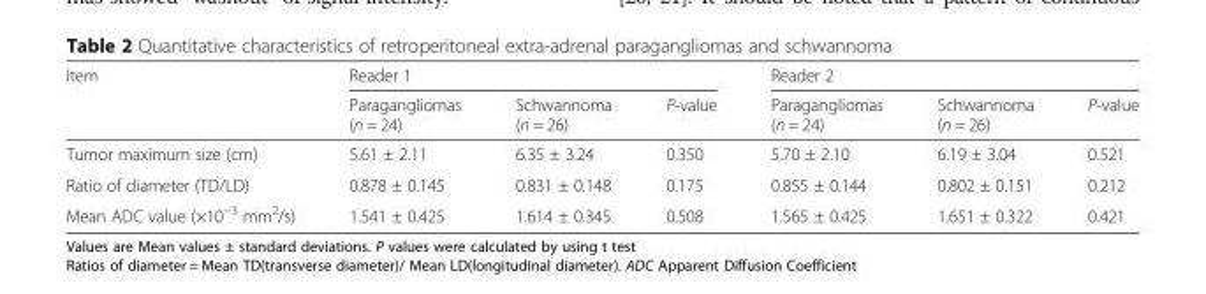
<table><thead><tr><td rowspan="2">Item</td><td colspan="3">Reader 1</td><td colspan="3">Reader 2</td></tr><tr><td>Paragangliomas (n = 24)</td><td>Schwannoma (n = 26)</td><td>P-value</td><td>Paragangliomas (n = 24)</td><td>Schwannoma (n = 26)</td><td>P-value</td></tr></thead><tbody><tr><td>Tumor maximum size (cm)</td><td>5.61 ± 2.11</td><td>6.35 ± 3.24</td><td>0.350</td><td>5.70 ± 2.10</td><td>6.19 ± 3.04</td><td>0.521</td></tr><tr><td>Ratio of diameter (TD/LD)</td><td>0.878 ± 0.145</td><td>0.831 ± 0.148</td><td>0.175</td><td>0.855 ± 0.144</td><td>0.802 ± 0.151</td><td>0.212</td></tr><tr><td>Mean ADC value (×10<sup>−3</sup> mm<sup>2</sup>/s)</td><td>1.541 ± 0.425</td><td>1.614 ± 0.345</td><td>0.508</td><td>1.565 ± 0.425</td><td>1.651 ± 0.322</td><td>0.421</td></tr></tbody></table>